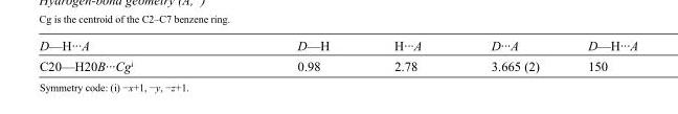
<table><tbody><tr><td>D—H···A</td><td>D—H</td><td>H···A</td><td>D···A</td><td>D—H···A</td></tr><tr><td>C20—H20B···Cg<sup>i</sup></td><td>0.98</td><td>2.78</td><td>3.665 (2)</td><td>150</td></tr></tbody></table>